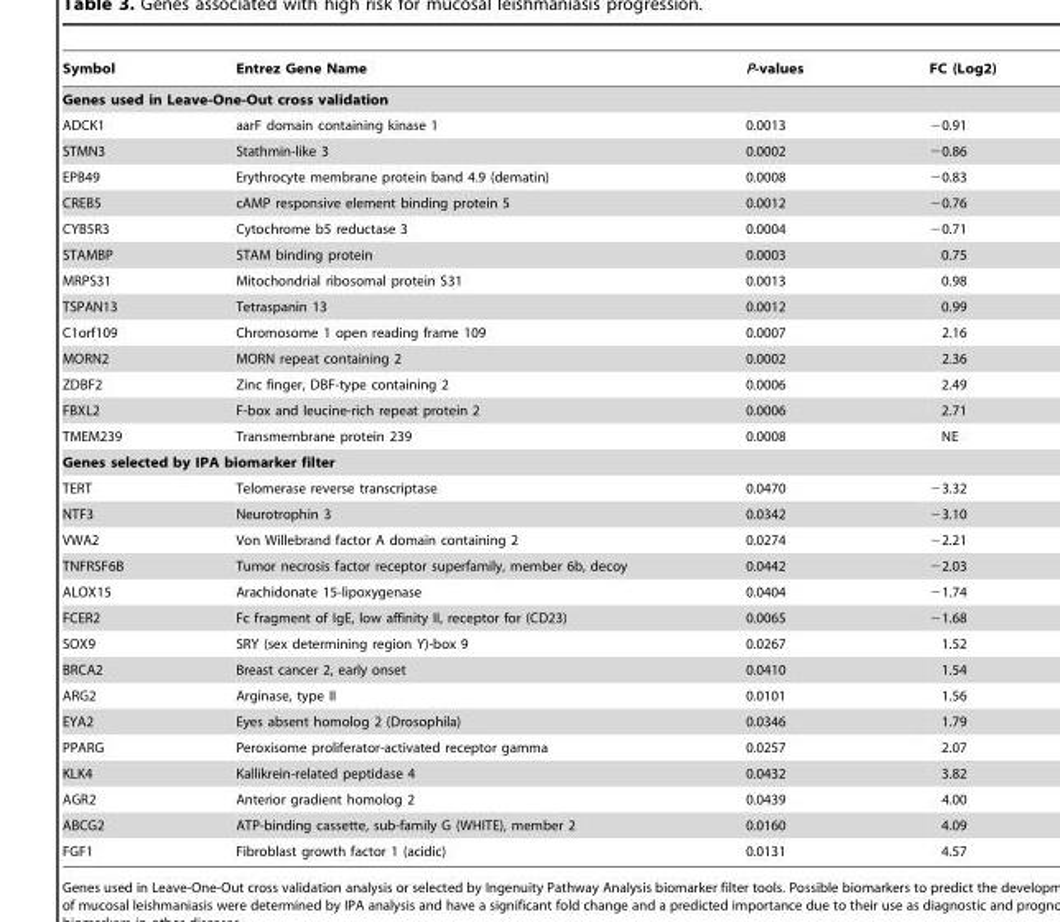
<table><thead><tr><td>Symbol</td><td>Entrez Gene Name</td><td>P-values</td><td>FC (Log2)</td></tr></thead><tbody><tr><td colspan="4">Genes used in Leave-One-Out cross validation</td></tr><tr><td>ADCK1</td><td>aarF domain containing kinase 1</td><td>0.0013</td><td>−0.91</td></tr><tr><td>STMN3</td><td>Stathmin-like 3</td><td>0.0002</td><td>−0.86</td></tr><tr><td>EPB49</td><td>Erythrocyte membrane protein band 4.9 (dematin)</td><td>0.0008</td><td>−0.83</td></tr><tr><td>CREB5</td><td>cAMP responsive element binding protein 5</td><td>0.0012</td><td>−0.76</td></tr><tr><td>CYB5R3</td><td>Cytochrome b5 reductase 3</td><td>0.0004</td><td>−0.71</td></tr><tr><td>STAMBP</td><td>STAM binding protein</td><td>0.0003</td><td>0.75</td></tr><tr><td>MRPS31</td><td>Mitochondrial ribosomal protein S31</td><td>0.0013</td><td>0.98</td></tr><tr><td>TSPAN13</td><td>Tetraspanin 13</td><td>0.0012</td><td>0.99</td></tr><tr><td>C1orf109</td><td>Chromosome 1 open reading frame 109</td><td>0.0007</td><td>2.16</td></tr><tr><td>MORN2</td><td>MORN repeat containing 2</td><td>0.0002</td><td>2.36</td></tr><tr><td>ZDBF2</td><td>Zinc finger, DBF-type containing 2</td><td>0.0006</td><td>2.49</td></tr><tr><td>FBXL2</td><td>F-box and leucine-rich repeat protein 2</td><td>0.0006</td><td>2.71</td></tr><tr><td>TMEM239</td><td>Transmembrane protein 239</td><td>0.0008</td><td>NE</td></tr><tr><td colspan="4">Genes selected by IPA biomarker filter</td></tr><tr><td>TERT</td><td>Telomerase reverse transcriptase</td><td>0.0470</td><td>−3.32</td></tr><tr><td>NTF3</td><td>Neurotrophin 3</td><td>0.0342</td><td>−3.10</td></tr><tr><td>VWA2</td><td>Von Willebrand factor A domain containing 2</td><td>0.0274</td><td>−2.21</td></tr><tr><td>TNFRSF6B</td><td>Tumor necrosis factor receptor superfamily, member 6b, decoy</td><td>0.0442</td><td>−2.03</td></tr><tr><td>ALOX15</td><td>Arachidonate 15-lipoxygenase</td><td>0.0404</td><td>−1.74</td></tr><tr><td>FCER2</td><td>Fc fragment of IgE, low affinity II, receptor for (CD23)</td><td>0.0065</td><td>−1.68</td></tr><tr><td>SOX9</td><td>SRY (sex determining region Y)-box 9</td><td>0.0267</td><td>1.52</td></tr><tr><td>BRCA2</td><td>Breast cancer 2, early onset</td><td>0.0410</td><td>1.54</td></tr><tr><td>ARG2</td><td>Arginase, type II</td><td>0.0101</td><td>1.56</td></tr><tr><td>EYA2</td><td>Eyes absent homolog 2 (Drosophila)</td><td>0.0346</td><td>1.79</td></tr><tr><td>PPARG</td><td>Peroxisome proliferator-activated receptor gamma</td><td>0.0257</td><td>2.07</td></tr><tr><td>KLK4</td><td>Kallikrein-related peptidase 4</td><td>0.0432</td><td>3.82</td></tr><tr><td>AGR2</td><td>Anterior gradient homolog 2</td><td>0.0439</td><td>4.00</td></tr><tr><td>ABCG2</td><td>ATP-binding cassette, sub-family G (WHITE), member 2</td><td>0.0160</td><td>4.09</td></tr><tr><td>FGF1</td><td>Fibroblast growth factor 1 (acidic)</td><td>0.0131</td><td>4.57</td></tr></tbody></table>